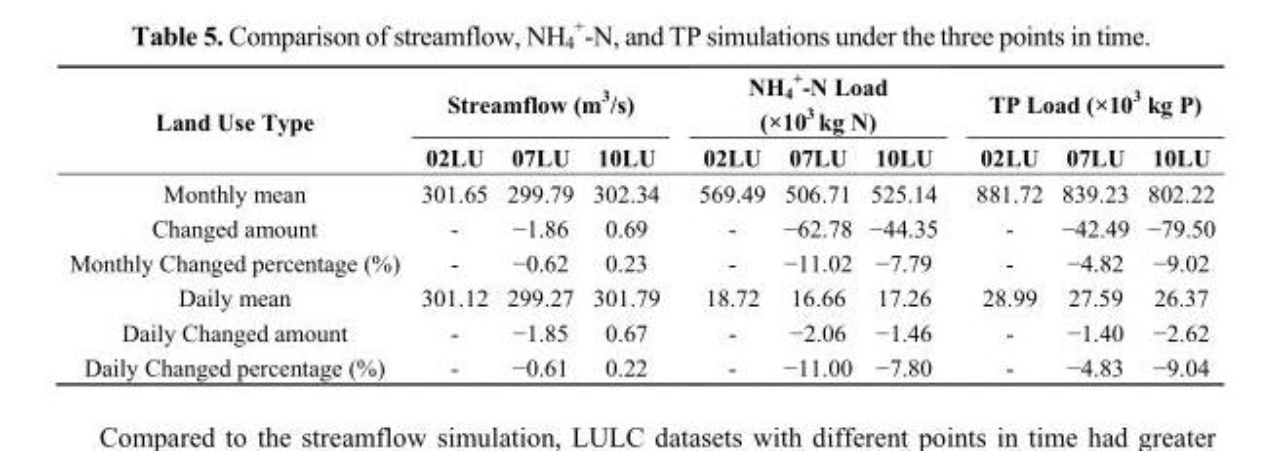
<table><thead><tr><td rowspan="2">Land Use Type</td><td colspan="3">Streamflow (m<sup>3</sup>/s)</td><td colspan="3">NH<sub>4</sub> <sup>+</sup>-N Load (×10<sup>3</sup> kg N)</td><td colspan="3">TP Load (×10<sup>3</sup> kg P)</td></tr><tr><td>02LU</td><td>07LU</td><td>10LU</td><td>02LU</td><td>07LU</td><td>10LU</td><td>02LU</td><td>07LU</td><td>10LU</td></tr></thead><tbody><tr><td>Monthly mean</td><td>301.65</td><td>299.79</td><td>302.34</td><td>569.49</td><td>506.71</td><td>525.14</td><td>881.72</td><td>839.23</td><td>802.22</td></tr><tr><td>Changed amount</td><td>-</td><td>−1.86</td><td>0.69</td><td>-</td><td>−62.78</td><td>−44.35</td><td>-</td><td>−42.49</td><td>−79.50</td></tr><tr><td>Monthly Changed percentage (%)</td><td>-</td><td>−0.62</td><td>0.23</td><td>-</td><td>−11.02</td><td>−7.79</td><td>-</td><td>−4.82</td><td>−9.02</td></tr><tr><td>Daily mean</td><td>301.12</td><td>299.27</td><td>301.79</td><td>18.72</td><td>16.66</td><td>17.26</td><td>28.99</td><td>27.59</td><td>26.37</td></tr><tr><td>Daily Changed amount</td><td>-</td><td>−1.85</td><td>0.67</td><td>-</td><td>−2.06</td><td>−1.46</td><td>-</td><td>−1.40</td><td>−2.62</td></tr><tr><td>Daily Changed percentage (%)</td><td>-</td><td>−0.61</td><td>0.22</td><td>-</td><td>−11.00</td><td>−7.80</td><td>-</td><td>−4.83</td><td>−9.04</td></tr></tbody></table>